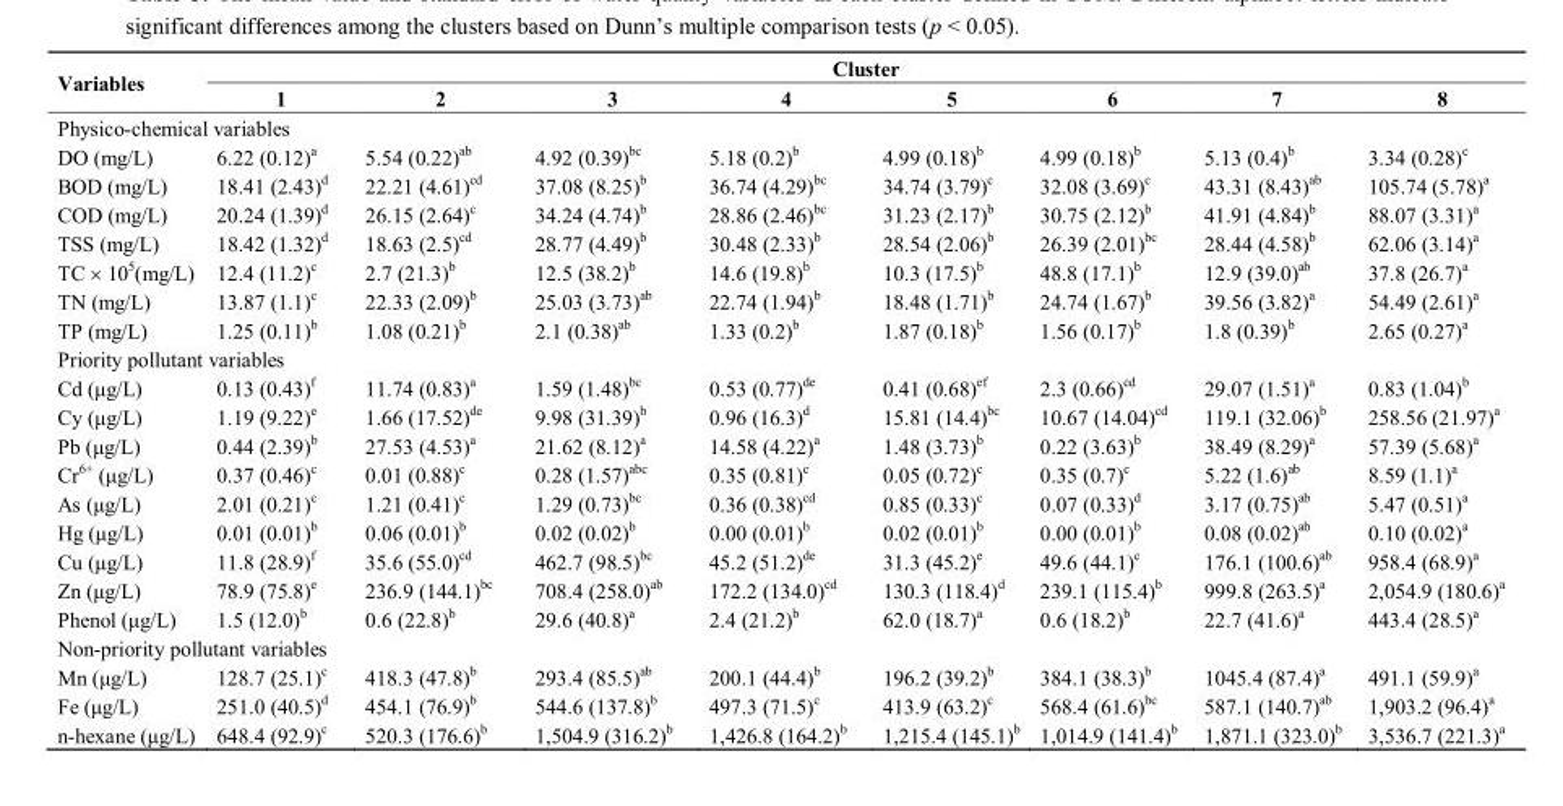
<table><thead><tr><td rowspan="2">Variables</td><td colspan="8">Cluster</td></tr><tr><td>1</td><td>2</td><td>3</td><td>4</td><td>5</td><td>6</td><td>7</td><td>8</td></tr></thead><tbody><tr><td colspan="9">Physico-chemical variables</td></tr><tr><td>DO (mg/L)</td><td>6.22 (0.12)<sup>a</sup></td><td>5.54 (0.22)<sup>ab</sup></td><td>4.92 (0.39)<sup>bc</sup></td><td>5.18 (0.2)<sup>b</sup></td><td>4.99 (0.18)<sup>b</sup></td><td>4.99 (0.18)<sup>b</sup></td><td>5.13 (0.4)<sup>b</sup></td><td>3.34 (0.28)<sup>c</sup></td></tr><tr><td>BOD (mg/L)</td><td>18.41 (2.43)<sup>d</sup></td><td>22.21 (4.61)<sup>cd</sup></td><td>37.08 (8.25)<sup>b</sup></td><td>36.74 (4.29)<sup>bc</sup></td><td>34.74 (3.79)<sup>c</sup></td><td>32.08 (3.69)<sup>c</sup></td><td>43.31 (8.43)<sup>ab</sup></td><td>105.74 (5.78)<sup>a</sup></td></tr><tr><td>COD (mg/L)</td><td>20.24 (1.39)<sup>d</sup></td><td>26.15 (2.64)<sup>c</sup></td><td>34.24 (4.74)<sup>b</sup></td><td>28.86 (2.46)<sup>bc</sup></td><td>31.23 (2.17)<sup>b</sup></td><td>30.75 (2.12)<sup>b</sup></td><td>41.91 (4.84)<sup>b</sup></td><td>88.07 (3.31)<sup>a</sup></td></tr><tr><td>TSS (mg/L)</td><td>18.42 (1.32)<sup>d</sup></td><td>18.63 (2.5)<sup>cd</sup></td><td>28.77 (4.49)<sup>b</sup></td><td>30.48 (2.33)<sup>b</sup></td><td>28.54 (2.06)<sup>b</sup></td><td>26.39 (2.01)<sup>bc</sup></td><td>28.44 (4.58)<sup>b</sup></td><td>62.06 (3.14)<sup>a</sup></td></tr><tr><td>TC × 10<sup>5</sup>(mg/L)</td><td>12.4 (11.2)<sup>c</sup></td><td>2.7 (21.3)<sup>b</sup></td><td>12.5 (38.2)<sup>b</sup></td><td>14.6 (19.8)<sup>b</sup></td><td>10.3 (17.5)<sup>b</sup></td><td>48.8 (17.1)<sup>b</sup></td><td>12.9 (39.0)<sup>ab</sup></td><td>37.8 (26.7)<sup>a</sup></td></tr><tr><td>TN (mg/L)</td><td>13.87 (1.1)<sup>c</sup></td><td>22.33 (2.09)<sup>b</sup></td><td>25.03 (3.73)<sup>ab</sup></td><td>22.74 (1.94)<sup>b</sup></td><td>18.48 (1.71)<sup>b</sup></td><td>24.74 (1.67)<sup>b</sup></td><td>39.56 (3.82)<sup>a</sup></td><td>54.49 (2.61)<sup>a</sup></td></tr><tr><td>TP (mg/L)</td><td>1.25 (0.11)<sup>b</sup></td><td>1.08 (0.21)<sup>b</sup></td><td>2.1 (0.38)<sup>ab</sup></td><td>1.33 (0.2)<sup>b</sup></td><td>1.87 (0.18)<sup>b</sup></td><td>1.56 (0.17)<sup>b</sup></td><td>1.8 (0.39)<sup>b</sup></td><td>2.65 (0.27)<sup>a</sup></td></tr><tr><td colspan="9">Priority pollutant variables</td></tr><tr><td>Cd (μg/L)</td><td>0.13 (0.43)<sup>f</sup></td><td>11.74 (0.83)<sup>a</sup></td><td>1.59 (1.48)<sup>bc</sup></td><td>0.53 (0.77)<sup>de</sup></td><td>0.41 (0.68)<sup>ef</sup></td><td>2.3 (0.66)<sup>cd</sup></td><td>29.07 (1.51)<sup>a</sup></td><td>0.83 (1.04)<sup>b</sup></td></tr><tr><td>Cy (μg/L)</td><td>1.19 (9.22)<sup>e</sup></td><td>1.66 (17.52)<sup>de</sup></td><td>9.98 (31.39)<sup>b</sup></td><td>0.96 (16.3)<sup>d</sup></td><td>15.81 (14.4)<sup>bc</sup></td><td>10.67 (14.04)<sup>cd</sup></td><td>119.1 (32.06)<sup>b</sup></td><td>258.56 (21.97)<sup>a</sup></td></tr><tr><td>Pb (μg/L)</td><td>0.44 (2.39)<sup>b</sup></td><td>27.53 (4.53)<sup>a</sup></td><td>21.62 (8.12)<sup>a</sup></td><td>14.58 (4.22)<sup>a</sup></td><td>1.48 (3.73)<sup>b</sup></td><td>0.22 (3.63)<sup>b</sup></td><td>38.49 (8.29)<sup>a</sup></td><td>57.39 (5.68)<sup>a</sup></td></tr><tr><td>Cr<sup>6+</sup> (μg/L)</td><td>0.37 (0.46)<sup>c</sup></td><td>0.01 (0.88)<sup>c</sup></td><td>0.28 (1.57)<sup>abc</sup></td><td>0.35 (0.81)<sup>c</sup></td><td>0.05 (0.72)<sup>c</sup></td><td>0.35 (0.7)<sup>c</sup></td><td>5.22 (1.6)<sup>ab</sup></td><td>8.59 (1.1)<sup>a</sup></td></tr><tr><td>As (μg/L)</td><td>2.01 (0.21)<sup>c</sup></td><td>1.21 (0.41)<sup>c</sup></td><td>1.29 (0.73)<sup>bc</sup></td><td>0.36 (0.38)<sup>cd</sup></td><td>0.85 (0.33)<sup>c</sup></td><td>0.07 (0.33)<sup>d</sup></td><td>3.17 (0.75)<sup>ab</sup></td><td>5.47 (0.51)<sup>a</sup></td></tr><tr><td>Hg (μg/L)</td><td>0.01 (0.01)<sup>b</sup></td><td>0.06 (0.01)<sup>b</sup></td><td>0.02 (0.02)<sup>b</sup></td><td>0.00 (0.01)<sup>b</sup></td><td>0.02 (0.01)<sup>b</sup></td><td>0.00 (0.01)<sup>b</sup></td><td>0.08 (0.02)<sup>ab</sup></td><td>0.10 (0.02)<sup>a</sup></td></tr><tr><td>Cu (μg/L)</td><td>11.8 (28.9)<sup>f</sup></td><td>35.6 (55.0)<sup>cd</sup></td><td>462.7 (98.5)<sup>bc</sup></td><td>45.2 (51.2)<sup>de</sup></td><td>31.3 (45.2)<sup>e</sup></td><td>49.6 (44.1)<sup>c</sup></td><td>176.1 (100.6)<sup>ab</sup></td><td>958.4 (68.9)<sup>a</sup></td></tr><tr><td>Zn (μg/L)</td><td>78.9 (75.8)<sup>e</sup></td><td>236.9 (144.1)<sup>bc</sup></td><td>708.4 (258.0)<sup>ab</sup></td><td>172.2 (134.0)<sup>cd</sup></td><td>130.3 (118.4)<sup>d</sup></td><td>239.1 (115.4)<sup>b</sup></td><td>999.8 (263.5)<sup>a</sup></td><td>2,054.9 (180.6)<sup>a</sup></td></tr><tr><td>Phenol (μg/L)</td><td>1.5 (12.0)<sup>b</sup></td><td>0.6 (22.8)<sup>b</sup></td><td>29.6 (40.8)<sup>a</sup></td><td>2.4 (21.2)<sup>b</sup></td><td>62.0 (18.7)<sup>a</sup></td><td>0.6 (18.2)<sup>b</sup></td><td>22.7 (41.6)<sup>a</sup></td><td>443.4 (28.5)<sup>a</sup></td></tr><tr><td colspan="9">Non-priority pollutant variables</td></tr><tr><td>Mn (μg/L)</td><td>128.7 (25.1)<sup>c</sup></td><td>418.3 (47.8)<sup>b</sup></td><td>293.4 (85.5)<sup>ab</sup></td><td>200.1 (44.4)<sup>b</sup></td><td>196.2 (39.2)<sup>b</sup></td><td>384.1 (38.3)<sup>b</sup></td><td>1045.4 (87.4)<sup>a</sup></td><td>491.1 (59.9)<sup>a</sup></td></tr><tr><td>Fe (μg/L)</td><td>251.0 (40.5)<sup>d</sup></td><td>454.1 (76.9)<sup>b</sup></td><td>544.6 (137.8)<sup>b</sup></td><td>497.3 (71.5)<sup>c</sup></td><td>413.9 (63.2)<sup>c</sup></td><td>568.4 (61.6)<sup>bc</sup></td><td>587.1 (140.7)<sup>ab</sup></td><td>1,903.2 (96.4)<sup>a</sup></td></tr><tr><td>n-hexane (μg/L)</td><td>648.4 (92.9)<sup>c</sup></td><td>520.3 (176.6)<sup>b</sup></td><td>1,504.9 (316.2)<sup>b</sup></td><td>1,426.8 (164.2)<sup>b</sup></td><td>1,215.4 (145.1)<sup>b</sup></td><td>1,014.9 (141.4)<sup>b</sup></td><td>1,871.1 (323.0)<sup>b</sup></td><td>3,536.7 (221.3)<sup>a</sup></td></tr></tbody></table>